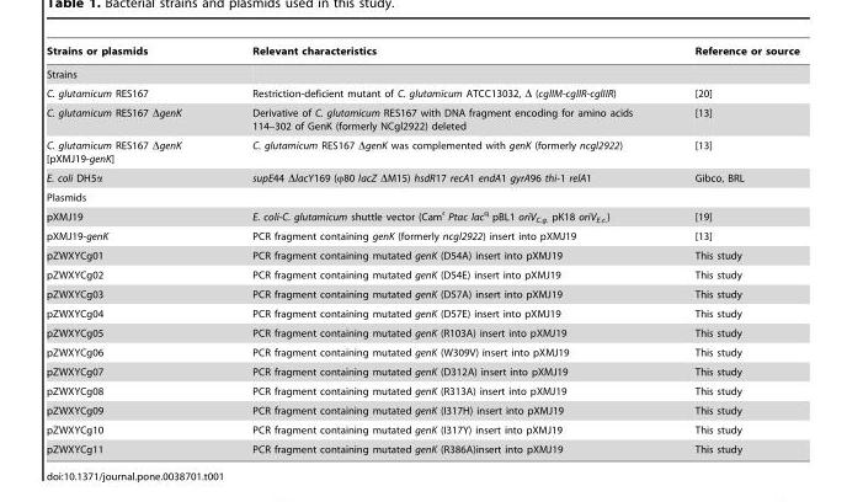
<table><thead><tr><td>Strains or plasmids</td><td>Relevant characteristics</td><td>Reference or source</td></tr></thead><tbody><tr><td colspan="3">Strains</td></tr><tr><td>C. glutamicum RES167</td><td>Restriction-deficient mutant of C. glutamicum ATCC13032, Δ (cglIM-cglIR-cglIIR)</td><td>[20]</td></tr><tr><td>C. glutamicum RES167 ΔgenK</td><td>Derivative of C. glutamicum RES167 with DNA fragment encoding for amino acids 114–302 of GenK (formerly NCgl2922) deleted</td><td>[13]</td></tr><tr><td>C. glutamicum RES167 ΔgenK [pXMJ19-genK]</td><td>C. glutamicum RES167 ΔgenK was complemented with genK (formerly ncgl2922)</td><td>[13]</td></tr><tr><td>E. coli DH5α</td><td>supE44 ΔlacY169 (ϕ80 lacZ ΔM15) hsdR17 recA1 endA1 gyrA96 thi-1 relA1</td><td>Gibco, BRL</td></tr><tr><td colspan="3">Plasmids</td></tr><tr><td>pXMJ19</td><td>E. coli-C. glutamicum shuttle vector (Cam<sup>r</sup> Ptac lac<sup>q</sup> pBL1 oriV<sub>C.g.</sub> pK18 oriV<sub>E.c.</sub>)</td><td>[19]</td></tr><tr><td>pXMJ19-genK</td><td>PCR fragment containing genK (formerly ncgl2922) insert into pXMJ19</td><td>[13]</td></tr><tr><td>pZWXYCg01</td><td>PCR fragment containing mutated genK (D54A) insert into pXMJ19</td><td>This study</td></tr><tr><td>pZWXYCg02</td><td>PCR fragment containing mutated genK (D54E) insert into pXMJ19</td><td>This study</td></tr><tr><td>pZWXYCg03</td><td>PCR fragment containing mutated genK (D57A) insert into pXMJ19</td><td>This study</td></tr><tr><td>pZWXYCg04</td><td>PCR fragment containing mutated genK (D57E) insert into pXMJ19</td><td>This study</td></tr><tr><td>pZWXYCg05</td><td>PCR fragment containing mutated genK (R103A) insert into pXMJ19</td><td>This study</td></tr><tr><td>pZWXYCg06</td><td>PCR fragment containing mutated genK (W309V) insert into pXMJ19</td><td>This study</td></tr><tr><td>pZWXYCg07</td><td>PCR fragment containing mutated genK (D312A) insert into pXMJ19</td><td>This study</td></tr><tr><td>pZWXYCg08</td><td>PCR fragment containing mutated genK (R313A) insert into pXMJ19</td><td>This study</td></tr><tr><td>pZWXYCg09</td><td>PCR fragment containing mutated genK (I317H) insert into pXMJ19</td><td>This study</td></tr><tr><td>pZWXYCg10</td><td>PCR fragment containing mutated genK (I317Y) insert into pXMJ19</td><td>This study</td></tr><tr><td>pZWXYCg11</td><td>PCR fragment containing mutated genK (R386A)insert into pXMJ19</td><td>This study</td></tr></tbody></table>